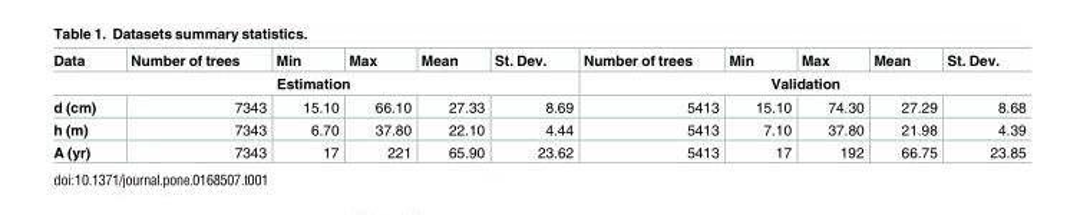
<table><thead><tr><td>Data</td><td>Number of trees</td><td>Min</td><td>Max</td><td>Mean</td><td>St. Dev.</td><td>Number of trees</td><td>Min</td><td>Max</td><td>Mean</td><td>St. Dev.</td></tr><tr><td colspan="6">Estimation</td><td colspan="5">Validation</td></tr></thead><tbody><tr><td>d (cm)</td><td>7343</td><td>15.10</td><td>66.10</td><td>27.33</td><td>8.69</td><td>5413</td><td>15.10</td><td>74.30</td><td>27.29</td><td>8.68</td></tr><tr><td>h (m)</td><td>7343</td><td>6.70</td><td>37.80</td><td>22.10</td><td>4.44</td><td>5413</td><td>7.10</td><td>37.80</td><td>21.98</td><td>4.39</td></tr><tr><td>A (yr)</td><td>7343</td><td>17</td><td>221</td><td>65.90</td><td>23.62</td><td>5413</td><td>17</td><td>192</td><td>66.75</td><td>23.85</td></tr></tbody></table>